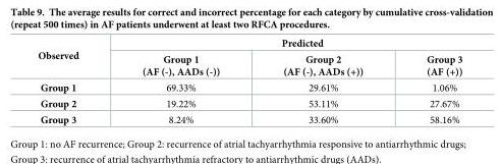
<table><thead><tr><td rowspan="2">Observed</td><td colspan="3">Predicted</td></tr><tr><td>Group 1 (AF (-), AADs (-))</td><td>Group 2 (AF (-), AADs (+))</td><td>Group 3 (AF (+))</td></tr></thead><tbody><tr><td>Group 1</td><td>69.33%</td><td>29.61%</td><td>1.06%</td></tr><tr><td>Group 2</td><td>19.22%</td><td>53.11%</td><td>27.67%</td></tr><tr><td>Group 3</td><td>8.24%</td><td>33.60%</td><td>58.16%</td></tr></tbody></table>